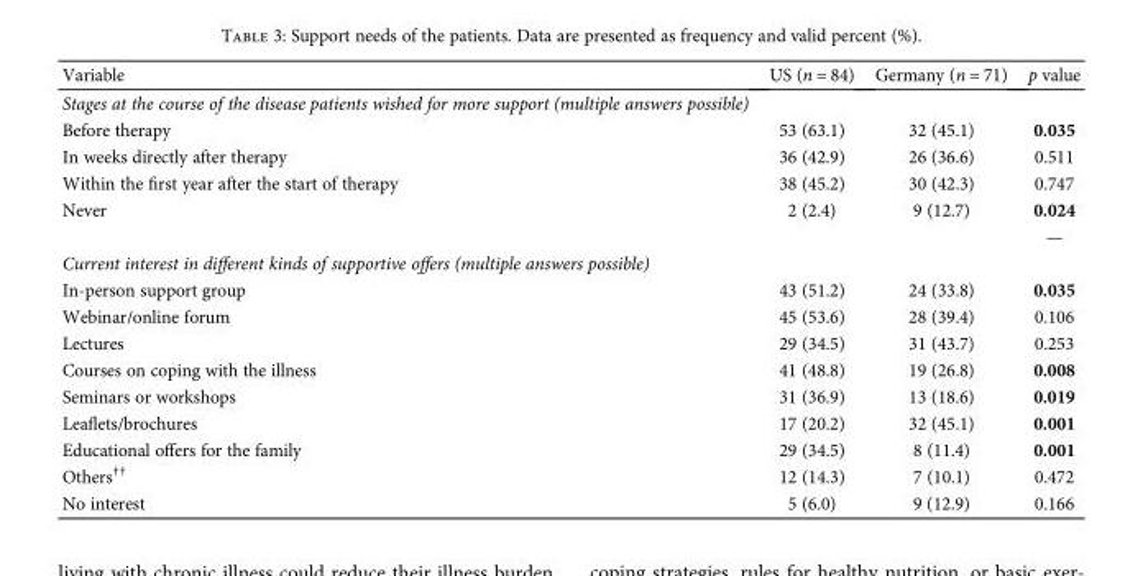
<table><thead><tr><td>Variable</td><td>US (n = 84)</td><td>Germany (n = 71)</td><td>p value</td></tr></thead><tbody><tr><td colspan="4">Stages at the course of the disease patients wished for more support (multiple answers possible)</td></tr><tr><td>Before therapy</td><td>53 (63.1)</td><td>32 (45.1)</td><td>0.035</td></tr><tr><td>In weeks directly after therapy</td><td>36 (42.9)</td><td>26 (36.6)</td><td>0.511</td></tr><tr><td>Within the first year after the start of therapy</td><td>38 (45.2)</td><td>30 (42.3)</td><td>0.747</td></tr><tr><td rowspan="2">Never</td><td>2 (2.4)</td><td>9 (12.7)</td><td>0.024</td></tr><tr><td></td><td></td><td>—</td></tr><tr><td colspan="4">Current interest in different kinds of supportive offers (multiple answers possible)</td></tr><tr><td>In-person support group</td><td>43 (51.2)</td><td>24 (33.8)</td><td>0.035</td></tr><tr><td>Webinar/online forum</td><td>45 (53.6)</td><td>28 (39.4)</td><td>0.106</td></tr><tr><td>Lectures</td><td>29 (34.5)</td><td>31 (43.7)</td><td>0.253</td></tr><tr><td>Courses on coping with the illness</td><td>41 (48.8)</td><td>19 (26.8)</td><td>0.008</td></tr><tr><td>Seminars or workshops</td><td>31 (36.9)</td><td>13 (18.6)</td><td>0.019</td></tr><tr><td>Leaflets/brochures</td><td>17 (20.2)</td><td>32 (45.1)</td><td>0.001</td></tr><tr><td>Educational offers for the family</td><td>29 (34.5)</td><td>8 (11.4)</td><td>0.001</td></tr><tr><td>Others<sup>††</sup></td><td>12 (14.3)</td><td>7 (10.1)</td><td>0.472</td></tr><tr><td>No interest</td><td>5 (6.0)</td><td>9 (12.9)</td><td>0.166</td></tr></tbody></table>